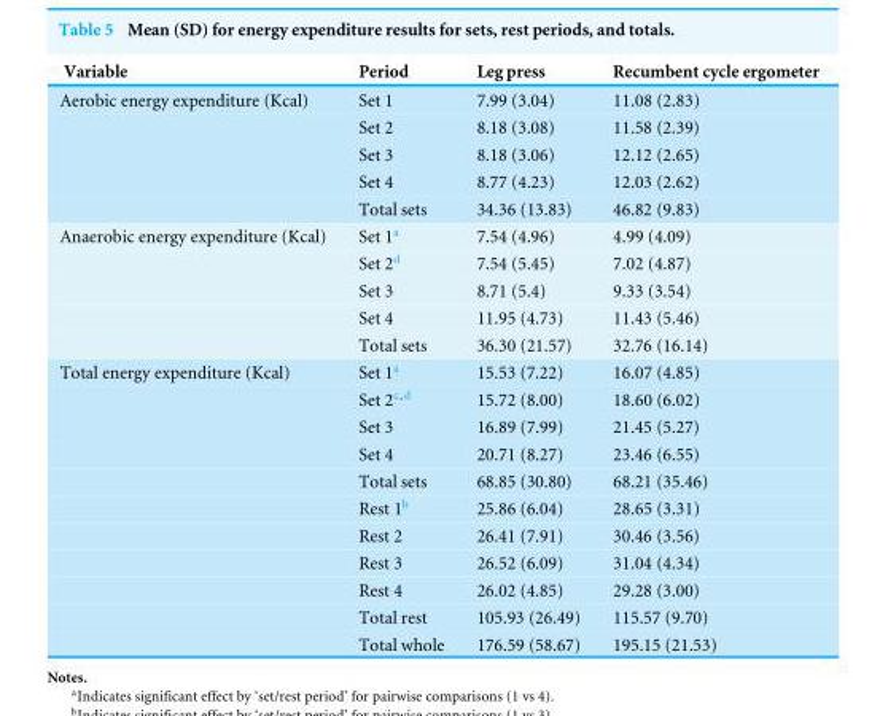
<table><thead><tr><td>Variable</td><td>Period</td><td>Leg press</td><td>Recumbent cycle ergometer</td></tr></thead><tbody><tr><td rowspan="5">Aerobic energy expenditure (Kcal)</td><td>Set 1</td><td>7.99 (3.04)</td><td>11.08 (2.83)</td></tr><tr><td>Set 2</td><td>8.18 (3.08)</td><td>11.58 (2.39)</td></tr><tr><td>Set 3</td><td>8.18 (3.06)</td><td>12.12 (2.65)</td></tr><tr><td>Set 4</td><td>8.77 (4.23)</td><td>12.03 (2.62)</td></tr><tr><td>Total sets</td><td>34.36 (13.83)</td><td>46.82 (9.83)</td></tr><tr><td rowspan="5">Anaerobic energy expenditure (Kcal)</td><td>Set 1<sup>a</sup></td><td>7.54 (4.96)</td><td>4.99 (4.09)</td></tr><tr><td>Set 2<sup>d</sup></td><td>7.54 (5.45)</td><td>7.02 (4.87)</td></tr><tr><td>Set 3</td><td>8.71 (5.4)</td><td>9.33 (3.54)</td></tr><tr><td>Set 4</td><td>11.95 (4.73)</td><td>11.43 (5.46)</td></tr><tr><td>Total sets</td><td>36.30 (21.57)</td><td>32.76 (16.14)</td></tr><tr><td rowspan="11">Total energy expenditure (Kcal)</td><td>Set 1<sup>a</sup></td><td>15.53 (7.22)</td><td>16.07 (4.85)</td></tr><tr><td>Set 2<sup>c,d</sup></td><td>15.72 (8.00)</td><td>18.60 (6.02)</td></tr><tr><td>Set 3</td><td>16.89 (7.99)</td><td>21.45 (5.27)</td></tr><tr><td>Set 4</td><td>20.71 (8.27)</td><td>23.46 (6.55)</td></tr><tr><td>Total sets</td><td>68.85 (30.80)</td><td>68.21 (35.46)</td></tr><tr><td>Rest 1<sup>b</sup></td><td>25.86 (6.04)</td><td>28.65 (3.31)</td></tr><tr><td>Rest 2</td><td>26.41 (7.91)</td><td>30.46 (3.56)</td></tr><tr><td>Rest 3</td><td>26.52 (6.09)</td><td>31.04 (4.34)</td></tr><tr><td>Rest 4</td><td>26.02 (4.85)</td><td>29.28 (3.00)</td></tr><tr><td>Total rest</td><td>105.93 (26.49)</td><td>115.57 (9.70)</td></tr><tr><td>Total whole</td><td>176.59 (58.67)</td><td>195.15 (21.53)</td></tr></tbody></table>